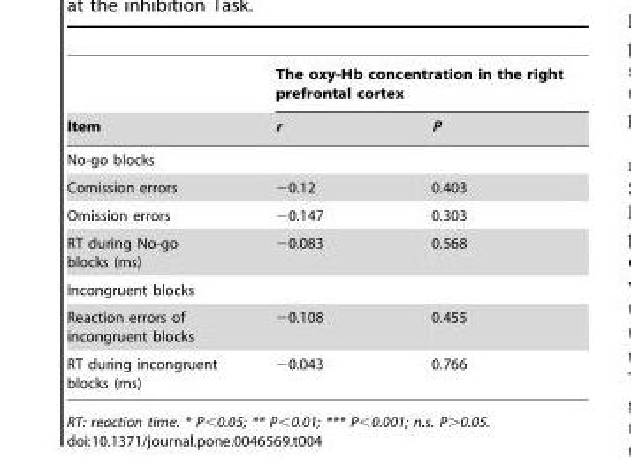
<table><thead><tr><td rowspan="2">Item</td><td colspan="2">The oxy-Hb concentration in the right prefrontal cortex</td></tr><tr><td>r</td><td>P</td></tr></thead><tbody><tr><td colspan="3">No-go blocks</td></tr><tr><td>Comission errors</td><td>−0.12</td><td>0.403</td></tr><tr><td>Omission errors</td><td>−0.147</td><td>0.303</td></tr><tr><td>RT during No-go blocks (ms)</td><td>−0.083</td><td>0.568</td></tr><tr><td colspan="3">Incongruent blocks</td></tr><tr><td>Reaction errors of incongruent blocks</td><td>−0.108</td><td>0.455</td></tr><tr><td>RT during incongruent blocks (ms)</td><td>−0.043</td><td>0.766</td></tr></tbody></table>